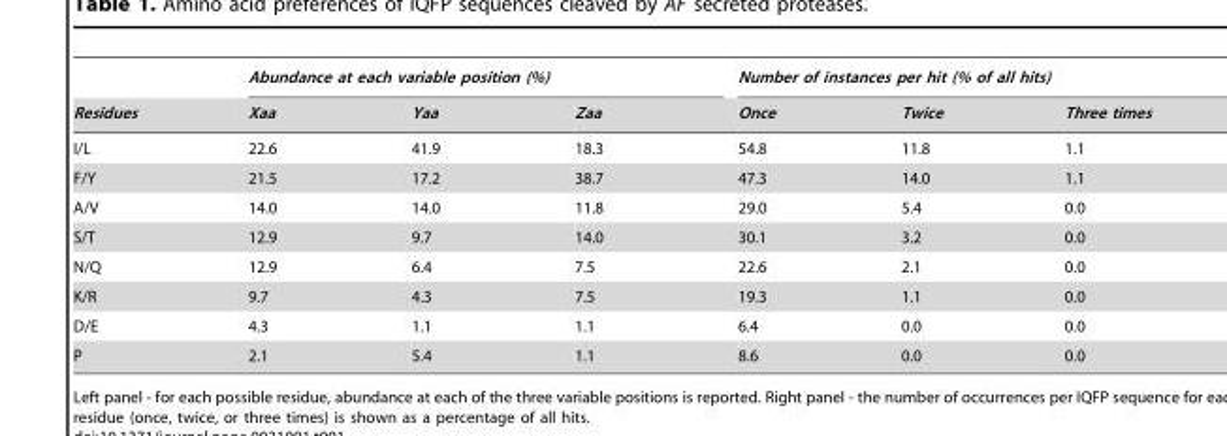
<table><thead><tr><td rowspan="2">Residues</td><td colspan="3">Abundance at each variable position (%)</td><td colspan="3">Number of instances per hit (% of all hits)</td></tr><tr><td>Xaa</td><td>Yaa</td><td>Zaa</td><td>Once</td><td>Twice</td><td>Three times</td></tr></thead><tbody><tr><td>I/L</td><td>22.6</td><td>41.9</td><td>18.3</td><td>54.8</td><td>11.8</td><td>1.1</td></tr><tr><td>F/Y</td><td>21.5</td><td>17.2</td><td>38.7</td><td>47.3</td><td>14.0</td><td>1.1</td></tr><tr><td>A/V</td><td>14.0</td><td>14.0</td><td>11.8</td><td>29.0</td><td>5.4</td><td>0.0</td></tr><tr><td>S/T</td><td>12.9</td><td>9.7</td><td>14.0</td><td>30.1</td><td>3.2</td><td>0.0</td></tr><tr><td>N/Q</td><td>12.9</td><td>6.4</td><td>7.5</td><td>22.6</td><td>2.1</td><td>0.0</td></tr><tr><td>K/R</td><td>9.7</td><td>4.3</td><td>7.5</td><td>19.3</td><td>1.1</td><td>0.0</td></tr><tr><td>D/E</td><td>4.3</td><td>1.1</td><td>1.1</td><td>6.4</td><td>0.0</td><td>0.0</td></tr><tr><td>P</td><td>2.1</td><td>5.4</td><td>1.1</td><td>8.6</td><td>0.0</td><td>0.0</td></tr></tbody></table>